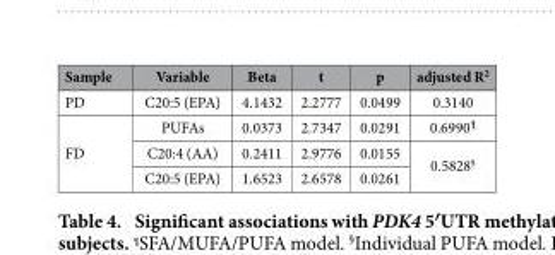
<table><thead><tr><td>Sample</td><td>Variable</td><td>Beta</td><td>t</td><td>p</td><td>adjusted R<sup>2</sup></td></tr></thead><tbody><tr><td>PD</td><td>C20:5 (EPA)</td><td>4.1432</td><td>2.2777</td><td>0.0499</td><td>0.3140</td></tr><tr><td rowspan="3">FD</td><td>PUFAs</td><td>0.0373</td><td>2.7347</td><td>0.0291</td><td>0.6990¶</td></tr><tr><td>C20:4 (AA)</td><td>0.2411</td><td>2.9776</td><td>0.0155</td><td rowspan="2">0.5828§</td></tr><tr><td>C20:5 (EPA)</td><td>1.6523</td><td>2.6578</td><td>0.0261</td></tr></tbody></table>